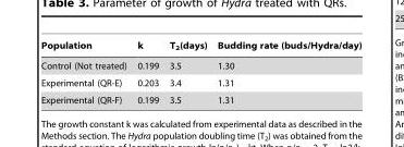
<table><thead><tr><td>Population</td><td>k</td><td>T<sub>2</sub>(days)</td><td>Budding rate (buds/Hydra/day)</td></tr></thead><tbody><tr><td>Control (Not treated)</td><td>0.199</td><td>3.5</td><td>1.30</td></tr><tr><td>Experimental (QR-E)</td><td>0.203</td><td>3.4</td><td>1.31</td></tr><tr><td>Experimental (QR-F)</td><td>0.199</td><td>3.5</td><td>1.31</td></tr></tbody></table>